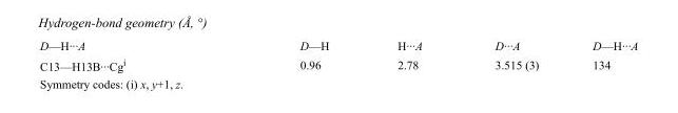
<table><tbody><tr><td>D—H···A</td><td>D—H</td><td>H···A</td><td>D···A</td><td>D—H···A</td></tr><tr><td>C13—H13B···Cg<sup>i</sup></td><td>0.96</td><td>2.78</td><td>3.515 (3)</td><td>134</td></tr></tbody></table>